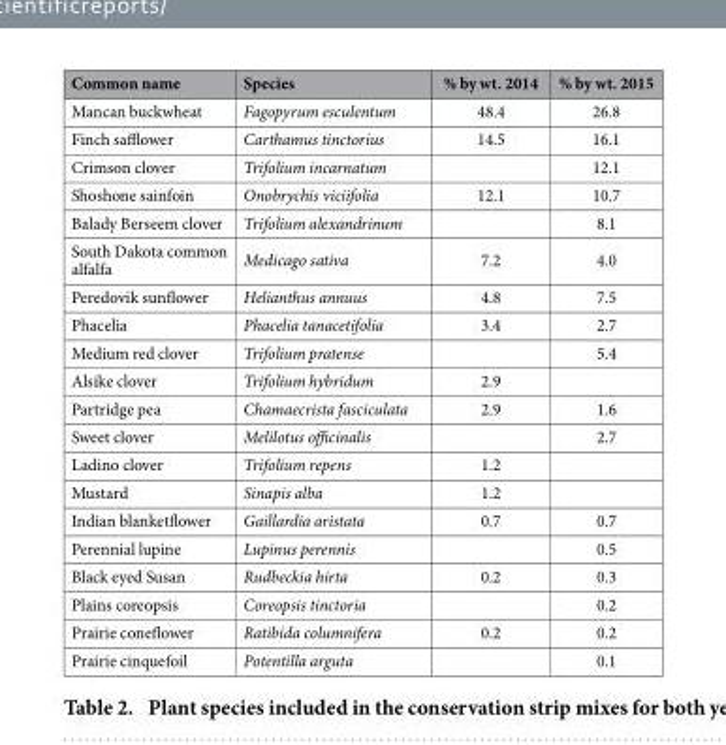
<table><thead><tr><td>Common name</td><td>Species</td><td>% by wt. 2014</td><td>% by wt. 2015</td></tr></thead><tbody><tr><td>Mancan buckwheat</td><td>Fagopyrum esculentum</td><td>48.4</td><td>26.8</td></tr><tr><td>Finch safflower</td><td>Carthamus tinctorius</td><td>14.5</td><td>16.1</td></tr><tr><td>Crimson clover</td><td>Trifolium incarnatum</td><td></td><td>12.1</td></tr><tr><td>Shoshone sainfoin</td><td>Onobrychis viciifolia</td><td>12.1</td><td>10.7</td></tr><tr><td>Balady Berseem clover</td><td>Trifolium alexandrinum</td><td></td><td>8.1</td></tr><tr><td>South Dakota common alfalfa</td><td>Medicago sativa</td><td>7.2</td><td>4.0</td></tr><tr><td>Peredovik sunflower</td><td>Helianthus annuus</td><td>4.8</td><td>7.5</td></tr><tr><td>Phacelia</td><td>Phacelia tanacetifolia</td><td>3.4</td><td>2.7</td></tr><tr><td>Medium red clover</td><td>Trifolium pratense</td><td></td><td>5.4</td></tr><tr><td>Alsike clover</td><td>Trifolium hybridum</td><td>2.9</td><td></td></tr><tr><td>Partridge pea</td><td>Chamaecrista fasciculata</td><td>2.9</td><td>1.6</td></tr><tr><td>Sweet clover</td><td>Melilotus officinalis</td><td></td><td>2.7</td></tr><tr><td>Ladino clover</td><td>Trifolium repens</td><td>1.2</td><td></td></tr><tr><td>Mustard</td><td>Sinapis alba</td><td>1.2</td><td></td></tr><tr><td>Indian blanketflower</td><td>Gaillardia aristata</td><td>0.7</td><td>0.7</td></tr><tr><td>Perennial lupine</td><td>Lupinus perennis</td><td></td><td>0.5</td></tr><tr><td>Black eyed Susan</td><td>Rudbeckia hirta</td><td>0.2</td><td>0.3</td></tr><tr><td>Plains coreopsis</td><td>Coreopsis tinctoria</td><td></td><td>0.2</td></tr><tr><td>Prairie coneflower</td><td>Ratibida columnifera</td><td>0.2</td><td>0.2</td></tr><tr><td>Prairie cinquefoil</td><td>Potentilla arguta</td><td></td><td>0.1</td></tr></tbody></table>